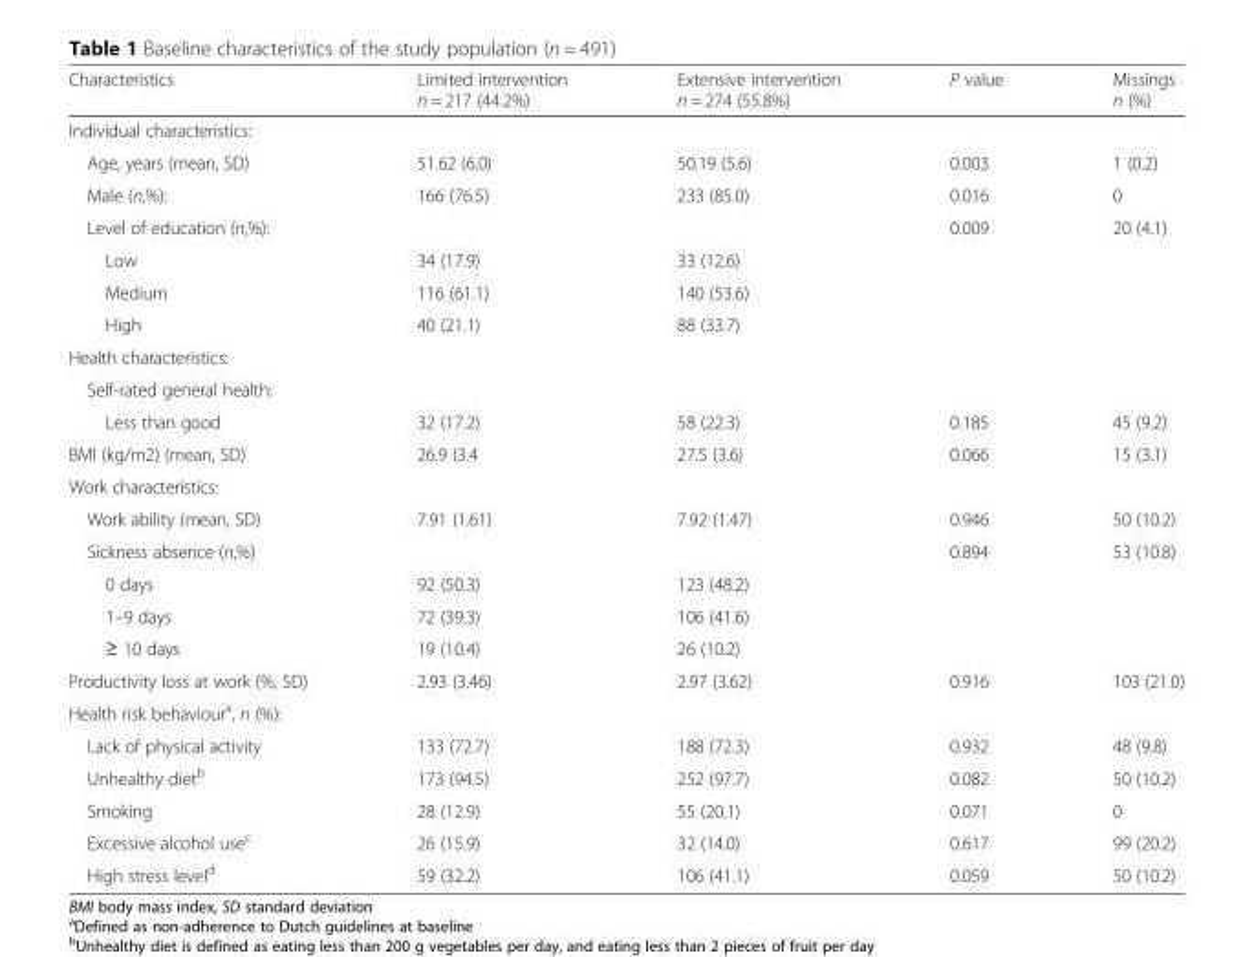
<table><thead><tr><td>Characteristics</td><td>Limited intervention n = 217 (44.2%)</td><td>Extensive intervention n = 274 (55.8%)</td><td>P value</td><td>Missings n (%)</td></tr></thead><tbody><tr><td colspan="5">Individual characteristics:</td></tr><tr><td>Age, years (mean, SD)</td><td>51.62 (6.0)</td><td>50.19 (5.6)</td><td>0.003</td><td>1 (0.2)</td></tr><tr><td>Male (n,%):</td><td>166 (76.5)</td><td>233 (85.0)</td><td>0.016</td><td>0</td></tr><tr><td>Level of education (n,%):</td><td></td><td></td><td>0.009</td><td>20 (4.1)</td></tr><tr><td>Low</td><td>34 (17.9)</td><td>33 (12.6)</td><td></td><td></td></tr><tr><td>Medium</td><td>116 (61.1)</td><td>140 (53.6)</td><td></td><td></td></tr><tr><td>High</td><td>40 (21.1)</td><td>88 (33.7)</td><td></td><td></td></tr><tr><td colspan="5">Health characteristics:</td></tr><tr><td colspan="5">Self-rated general health:</td></tr><tr><td>Less than good</td><td>32 (17.2)</td><td>58 (22.3)</td><td>0.185</td><td>45 (9.2)</td></tr><tr><td>BMI (kg/m2) (mean, SD)</td><td>26.9 (3.4</td><td>27.5 (3.6)</td><td>0.066</td><td>15 (3.1)</td></tr><tr><td colspan="5">Work characteristics:</td></tr><tr><td>Work ability (mean, SD)</td><td>7.91 (1.61)</td><td>7.92 (1.47)</td><td>0.946</td><td>50 (10.2)</td></tr><tr><td>Sickness absence (n,%)</td><td></td><td></td><td>0.894</td><td>53 (10.8)</td></tr><tr><td>0 days</td><td>92 (50.3)</td><td>123 (48.2)</td><td></td><td></td></tr><tr><td>1–9 days</td><td>72 (39.3)</td><td>106 (41.6)</td><td></td><td></td></tr><tr><td>≥ 10 days</td><td>19 (10.4)</td><td>26 (10.2)</td><td></td><td></td></tr><tr><td>Productivity loss at work (%, SD)</td><td>2.93 (3.46)</td><td>2.97 (3.62)</td><td>0.916</td><td>103 (21.0)</td></tr><tr><td colspan="5">Health risk behaviour<sup>a</sup>, n (%):</td></tr><tr><td>Lack of physical activity</td><td>133 (72.7)</td><td>188 (72.3)</td><td>0.932</td><td>48 (9.8)</td></tr><tr><td>Unhealthy diet<sup>b</sup></td><td>173 (94.5)</td><td>252 (97.7)</td><td>0.082</td><td>50 (10.2)</td></tr><tr><td>Smoking</td><td>28 (12.9)</td><td>55 (20.1)</td><td>0.071</td><td>0</td></tr><tr><td>Excessive alcohol use<sup>c</sup></td><td>26 (15.9)</td><td>32 (14.0)</td><td>0.617</td><td>99 (20.2)</td></tr><tr><td>High stress level<sup>d</sup></td><td>59 (32.2)</td><td>106 (41.1)</td><td>0.059</td><td>50 (10.2)</td></tr></tbody></table>